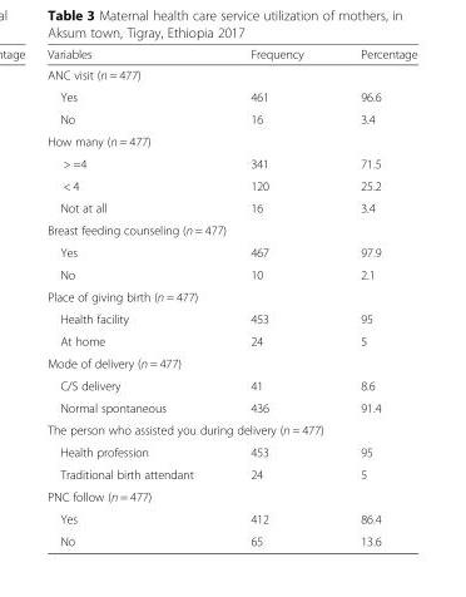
<table><thead><tr><td>Variables</td><td>Frequency</td><td>Percentage</td></tr></thead><tbody><tr><td colspan="3">ANC visit (n = 477)</td></tr><tr><td>Yes</td><td>461</td><td>96.6</td></tr><tr><td>No</td><td>16</td><td>3.4</td></tr><tr><td colspan="3">How many (n = 477)</td></tr><tr><td>&gt; =4</td><td>341</td><td>71.5</td></tr><tr><td>&lt; 4</td><td>120</td><td>25.2</td></tr><tr><td>Not at all</td><td>16</td><td>3.4</td></tr><tr><td colspan="3">Breast feeding counseling (n = 477)</td></tr><tr><td>Yes</td><td>467</td><td>97.9</td></tr><tr><td>No</td><td>10</td><td>2.1</td></tr><tr><td colspan="3">Place of giving birth (n = 477)</td></tr><tr><td>Health facility</td><td>453</td><td>95</td></tr><tr><td>At home</td><td>24</td><td>5</td></tr><tr><td colspan="3">Mode of delivery (n = 477)</td></tr><tr><td>C/S delivery</td><td>41</td><td>8.6</td></tr><tr><td>Normal spontaneous</td><td>436</td><td>91.4</td></tr><tr><td colspan="3">The person who assisted you during delivery (n = 477)</td></tr><tr><td>Health profession</td><td>453</td><td>95</td></tr><tr><td>Traditional birth attendant</td><td>24</td><td>5</td></tr><tr><td colspan="3">PNC follow (n = 477)</td></tr><tr><td>Yes</td><td>412</td><td>86.4</td></tr><tr><td>No</td><td>65</td><td>13.6</td></tr></tbody></table>